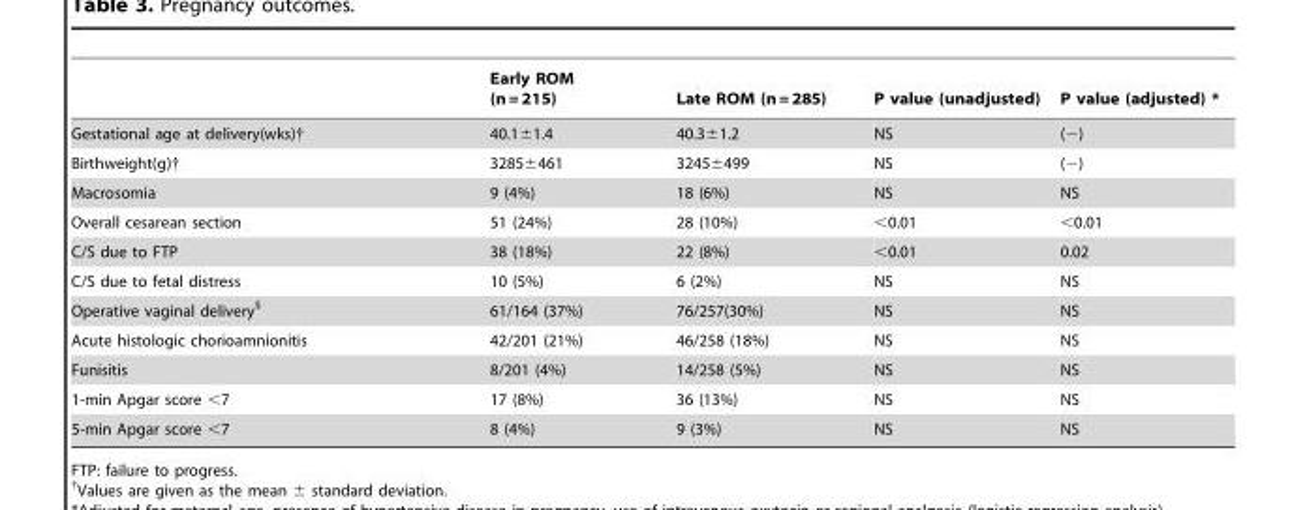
<table><thead><tr><td></td><td>Early ROM (n = 215)</td><td>Late ROM (n = 285)</td><td>P value (unadjusted)</td><td>P value (adjusted) *</td></tr></thead><tbody><tr><td>Gestational age at delivery(wks)†</td><td>40.1±1.4</td><td>40.3±1.2</td><td>NS</td><td>(−)</td></tr><tr><td>Birthweight(g)†</td><td>3285±461</td><td>3245±499</td><td>NS</td><td>(−)</td></tr><tr><td>Macrosomia</td><td>9 (4%)</td><td>18 (6%)</td><td>NS</td><td>NS</td></tr><tr><td>Overall cesarean section</td><td>51 (24%)</td><td>28 (10%)</td><td>&lt;0.01</td><td>&lt;0.01</td></tr><tr><td>C/S due to FTP</td><td>38 (18%)</td><td>22 (8%)</td><td>&lt;0.01</td><td>0.02</td></tr><tr><td>C/S due to fetal distress</td><td>10 (5%)</td><td>6 (2%)</td><td>NS</td><td>NS</td></tr><tr><td>Operative vaginal delivery§</td><td>61/164 (37%)</td><td>76/257(30%)</td><td>NS</td><td>NS</td></tr><tr><td>Acute histologic chorioamnionitis</td><td>42/201 (21%)</td><td>46/258 (18%)</td><td>NS</td><td>NS</td></tr><tr><td>Funisitis</td><td>8/201 (4%)</td><td>14/258 (5%)</td><td>NS</td><td>NS</td></tr><tr><td>1-min Apgar score &lt;7</td><td>17 (8%)</td><td>36 (13%)</td><td>NS</td><td>NS</td></tr><tr><td>5-min Apgar score &lt;7</td><td>8 (4%)</td><td>9 (3%)</td><td>NS</td><td>NS</td></tr></tbody></table>